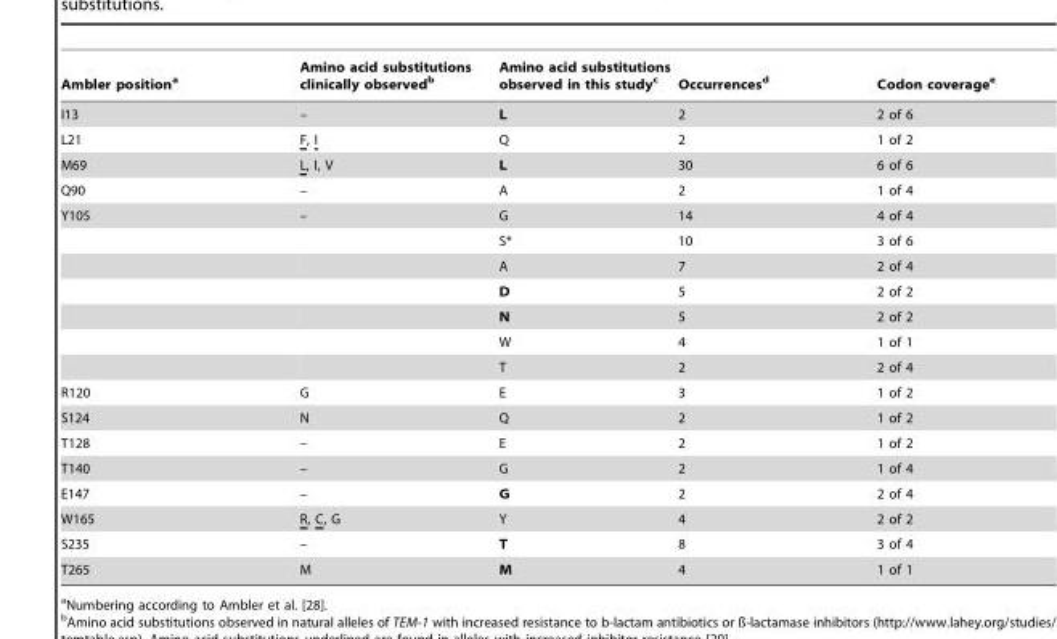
<table><thead><tr><td>Ambler position<sup>a</sup></td><td>Amino acid substitutions clinically observed<sup>b</sup></td><td>Amino acid substitutions observed in this study<sup>c</sup></td><td>Occurrences<sup>d</sup></td><td>Codon coverage<sup>e</sup></td></tr></thead><tbody><tr><td>I13</td><td>–</td><td>L</td><td>2</td><td>2 of 6</td></tr><tr><td>L21</td><td>F, I</td><td>Q</td><td>2</td><td>1 of 2</td></tr><tr><td>M69</td><td>L, I, V</td><td>L</td><td>30</td><td>6 of 6</td></tr><tr><td>Q90</td><td>–</td><td>A</td><td>2</td><td>1 of 4</td></tr><tr><td rowspan="7">Y105</td><td>–</td><td>G</td><td>14</td><td>4 of 4</td></tr><tr><td></td><td>S*</td><td>10</td><td>3 of 6</td></tr><tr><td></td><td>A</td><td>7</td><td>2 of 4</td></tr><tr><td></td><td>D</td><td>5</td><td>2 of 2</td></tr><tr><td></td><td>N</td><td>5</td><td>2 of 2</td></tr><tr><td></td><td>W</td><td>4</td><td>1 of 1</td></tr><tr><td></td><td>T</td><td>2</td><td>2 of 4</td></tr><tr><td>R120</td><td>G</td><td>E</td><td>3</td><td>1 of 2</td></tr><tr><td>S124</td><td>N</td><td>Q</td><td>2</td><td>1 of 2</td></tr><tr><td>T128</td><td>–</td><td>E</td><td>2</td><td>1 of 2</td></tr><tr><td>T140</td><td>–</td><td>G</td><td>2</td><td>1 of 4</td></tr><tr><td>E147</td><td>–</td><td>G</td><td>2</td><td>2 of 4</td></tr><tr><td>W165</td><td>R, C, G</td><td>Y</td><td>4</td><td>2 of 2</td></tr><tr><td>S235</td><td>–</td><td>T</td><td>8</td><td>3 of 4</td></tr><tr><td>T265</td><td>M</td><td>M</td><td>4</td><td>1 of 1</td></tr></tbody></table>